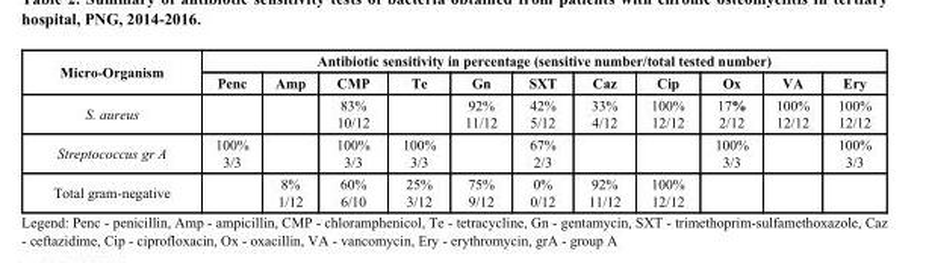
<table><thead><tr><td rowspan="2">Micro-Organism</td><td colspan="11">Antibiotic sensitivity in percentage (sensitive number/total tested number)</td></tr><tr><td>Penc</td><td>Amp</td><td>CMP</td><td>Te</td><td>Gn</td><td>SXT</td><td>Caz</td><td>Cip</td><td>Ox</td><td>VA</td><td>Ery</td></tr></thead><tbody><tr><td>S. aureus</td><td></td><td></td><td>83% 10/12</td><td></td><td>92% 11/12</td><td>42% 5/12</td><td>33% 4/12</td><td>100% 12/12</td><td>17% 2/12</td><td>100% 12/12</td><td>100% 12/12</td></tr><tr><td>Streptococcus gr A</td><td>100% 3/3</td><td></td><td>100% 3/3</td><td>100% 3/3</td><td></td><td>67% 2/3</td><td></td><td></td><td>100% 3/3</td><td></td><td>100% 3/3</td></tr><tr><td>Total gram-negative</td><td></td><td>8% 1/12</td><td>60% 6/10</td><td>25% 3/12</td><td>75% 9/12</td><td>0% 0/12</td><td>92% 11/12</td><td>100% 12/12</td><td></td><td></td><td></td></tr></tbody></table>